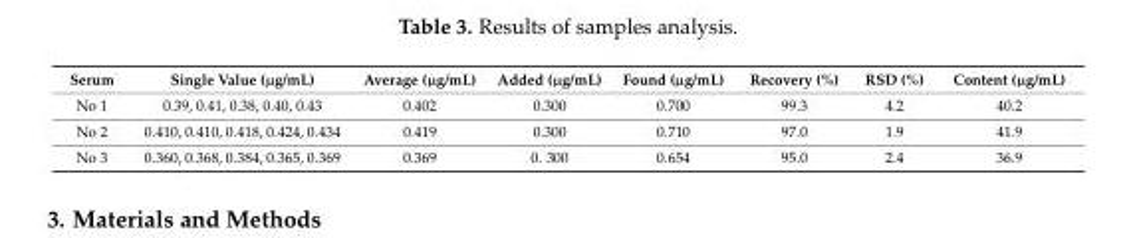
<table><thead><tr><td>Serum</td><td>Single Value (µg/mL)</td><td>Average (µg/mL)</td><td>Added (µg/mL)</td><td>Found (µg/mL)</td><td>Recovery (%)</td><td>RSD (%)</td><td>Content (µg/mL)</td></tr></thead><tbody><tr><td>No 1</td><td>0.39, 0.41, 0.38, 0.40, 0.43</td><td>0.402</td><td>0.300</td><td>0.700</td><td>99.3</td><td>4.2</td><td>40.2</td></tr><tr><td>No 2</td><td>0.410, 0.410, 0.418, 0.424, 0.434</td><td>0.419</td><td>0.300</td><td>0.710</td><td>97.0</td><td>1.9</td><td>41.9</td></tr><tr><td>No 3</td><td>0.360, 0.368, 0.384, 0.365, 0.369</td><td>0.369</td><td>0. 300</td><td>0.654</td><td>95.0</td><td>2.4</td><td>36.9</td></tr></tbody></table>